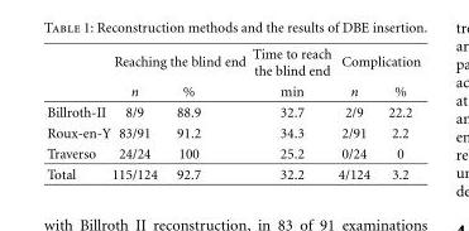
<table><thead><tr><td rowspan="2"></td><td colspan="2">Reaching the blind end</td><td rowspan="2">Time to reach the blind end min</td><td colspan="2">Complication</td></tr><tr><td>n</td><td>%</td><td>n</td><td>%</td></tr></thead><tbody><tr><td>Billroth-II</td><td>8/9</td><td>88.9</td><td>32.7</td><td>2/9</td><td>22.2</td></tr><tr><td>Roux-en-Y</td><td>83/91</td><td>91.2</td><td>34.3</td><td>2/91</td><td>2.2</td></tr><tr><td>Traverso</td><td>24/24</td><td>100</td><td>25.2</td><td>0/24</td><td>0</td></tr><tr><td>Total</td><td>115/124</td><td>92.7</td><td>32.2</td><td>4/124</td><td>3.2</td></tr></tbody></table>